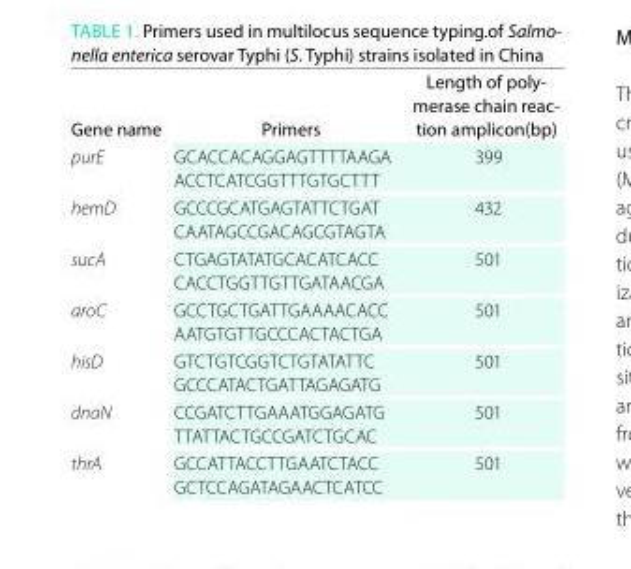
<table><thead><tr><td>Gene name</td><td>Primers</td><td>length of poly- merase chain reac- tion amplicon(bp)</td></tr></thead><tbody><tr><td>purE</td><td>GCACCACAGGAGTTTTAAGA ACCTCATCGGTTTGTGCTTT</td><td>399</td></tr><tr><td>hemD</td><td>GCCCGCATGAGTATTCTGAT CAATAGCCGACAGCGTAGTA</td><td>432</td></tr><tr><td>sucA</td><td>CTGAGTATATGCACATCACC CACCTGGTTGTTGATAACGA</td><td>501</td></tr><tr><td>aroC</td><td>GCCTGCTGATTGAAAACACC AATGTGTTGCCCACTACTGA</td><td>501</td></tr><tr><td>hisD</td><td>GTCTGTCGGTCTGTATATTC GCCCATACTGATTAGAGATG</td><td>501</td></tr><tr><td>dnaN</td><td>CCGATCTTGAAATGGAGATG TTATTACTGCCGATCTGCAC</td><td>501</td></tr><tr><td>thrA</td><td>GCCATTACCTTGAATCTACC GCTCCAGATAGAACTCATCC</td><td>501</td></tr></tbody></table>